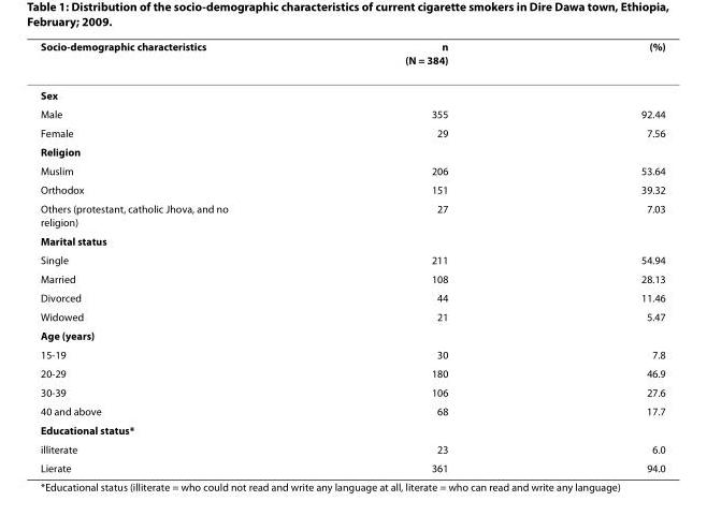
<table><thead><tr><td>Socio-demographic characteristics</td><td>n (N = 384)</td><td>(%)</td></tr></thead><tbody><tr><td colspan="3">Sex</td></tr><tr><td>Male</td><td>355</td><td>92.44</td></tr><tr><td>Female</td><td>29</td><td>7.56</td></tr><tr><td colspan="3">Religion</td></tr><tr><td>Muslim</td><td>206</td><td>53.64</td></tr><tr><td>Orthodox</td><td>151</td><td>39.32</td></tr><tr><td>Others (protestant, catholic Jhova, and no religion)</td><td>27</td><td>7.03</td></tr><tr><td colspan="3">Marital status</td></tr><tr><td>Single</td><td>211</td><td>54.94</td></tr><tr><td>Married</td><td>108</td><td>28.13</td></tr><tr><td>Divorced</td><td>44</td><td>11.46</td></tr><tr><td>Widowed</td><td>21</td><td>5.47</td></tr><tr><td colspan="3">Age (years)</td></tr><tr><td>15-19</td><td>30</td><td>7.8</td></tr><tr><td>20-29</td><td>180</td><td>46.9</td></tr><tr><td>30-39</td><td>106</td><td>27.6</td></tr><tr><td>40 and above</td><td>68</td><td>17.7</td></tr><tr><td colspan="3">Educational status*</td></tr><tr><td>illiterate</td><td>23</td><td>6.0</td></tr><tr><td>Lierate</td><td>361</td><td>94.0</td></tr></tbody></table>